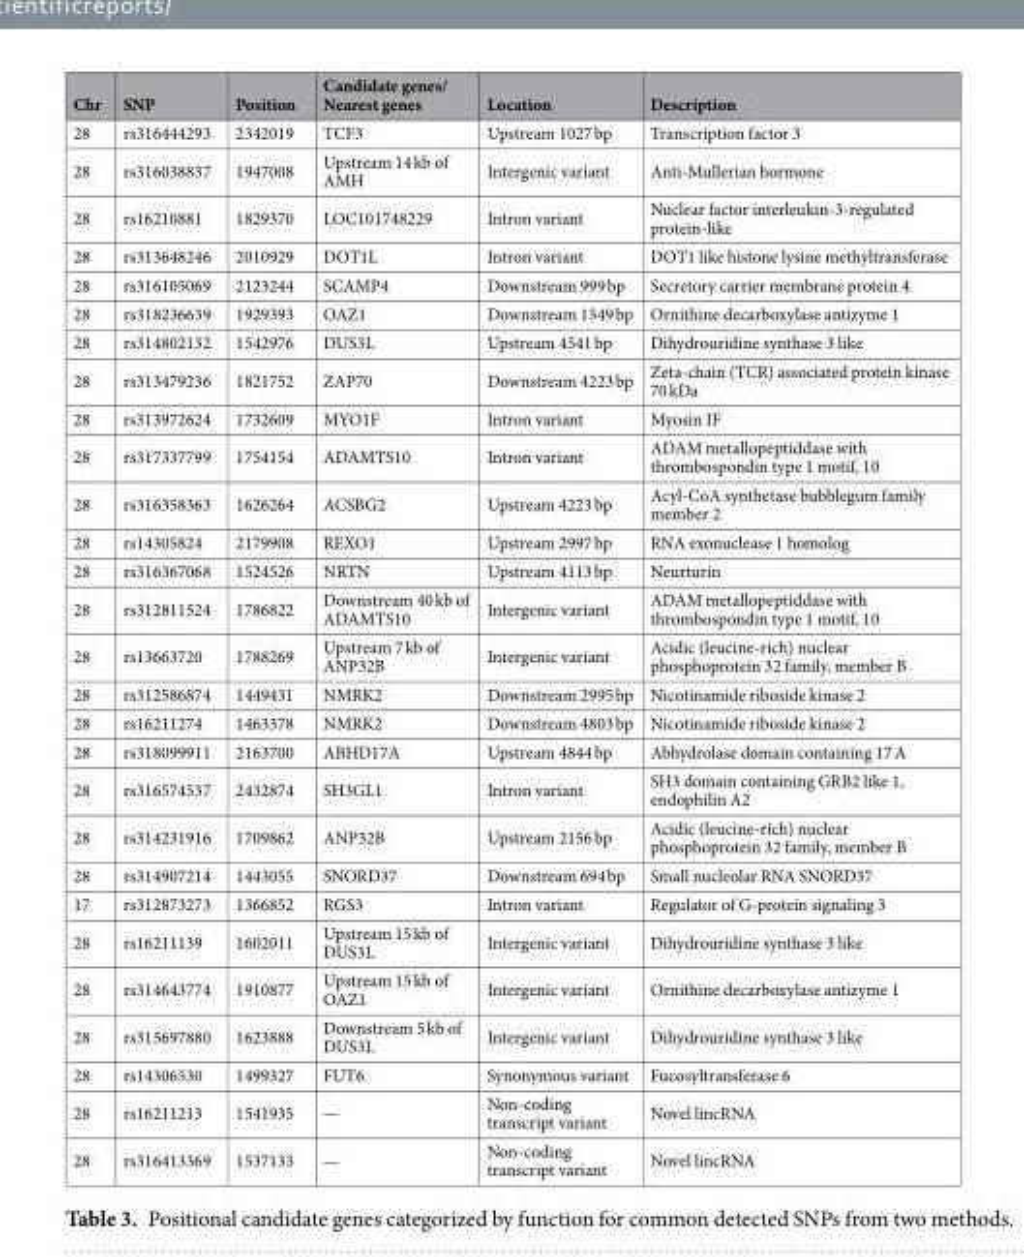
<table><thead><tr><td>Chr</td><td>SNP</td><td>Position</td><td>Candidate genes/ Nearest genes</td><td>Location</td><td>Description</td></tr></thead><tbody><tr><td>28</td><td>rs316444293</td><td>2342019</td><td>TCF3</td><td>Upstream 1027 bp</td><td>Transcription factor 3</td></tr><tr><td>28</td><td>rs316038837</td><td>1947008</td><td>Upstream 14 kb of AMH</td><td>Intergenic variant</td><td>Anti-Mullerian hormone</td></tr><tr><td>28</td><td>rs16210881</td><td>1829370</td><td>LOC101748229</td><td>Intron variant</td><td>Nuclear factor interleukin-3-regulated protein-like</td></tr><tr><td>28</td><td>rs313648246</td><td>2010929</td><td>DOT1L</td><td>Intron variant</td><td>DOT1 like histone lysine methyltransferase</td></tr><tr><td>28</td><td>rs316105069</td><td>2123244</td><td>SCAMP4</td><td>Downstream 999 bp</td><td>Secretory carrier membrane protein 4</td></tr><tr><td>28</td><td>rs318236639</td><td>1929393</td><td>OAZ1</td><td>Downstream 1549 bp</td><td>Ornithine decarboxylase antizyme 1</td></tr><tr><td>28</td><td>rs314802132</td><td>1542976</td><td>DUS3L</td><td>Upstream 4541 bp</td><td>Dihydrouridine synthase 3 like</td></tr><tr><td>28</td><td>rs313479236</td><td>1821752</td><td>ZAP70</td><td>Downstream 4223 bp</td><td>Zeta-chain (TCR) associated protein kinase 70 kDa</td></tr><tr><td>28</td><td>rs313972624</td><td>1732609</td><td>MYO1F</td><td>Intron variant</td><td>Myosin IF</td></tr><tr><td>28</td><td>rs317337799</td><td>1754154</td><td>ADAMTS10</td><td>Intron variant</td><td>ADAM metallopeptiddase with thrombospondin type 1 motif, 10</td></tr><tr><td>28</td><td>rs316358363</td><td>1626264</td><td>ACSBG2</td><td>Upstream 4223 bp</td><td>Acyl-CoA synthetase bubblegum family member 2</td></tr><tr><td>28</td><td>rs14305824</td><td>2179908</td><td>REXO1</td><td>Upstream 2997 bp</td><td>RNA exonuclease 1 homolog</td></tr><tr><td>28</td><td>rs316367068</td><td>1524526</td><td>NRTN</td><td>Upstream 4113 bp</td><td>Neurturin</td></tr><tr><td>28</td><td>rs312811524</td><td>1786822</td><td>Downstream 40 kb of ADAMTS10</td><td>Intergenic variant</td><td>ADAM metallopeptiddase with thrombospondin type 1 motif, 10</td></tr><tr><td>28</td><td>rs13663720</td><td>1788269</td><td>Upstream 7 kb of ANP32B</td><td>Intergenic variant</td><td>Acidic (leucine-rich) nuclear phosphoprotein 32 family, member B</td></tr><tr><td>28</td><td>rs312586874</td><td>1449431</td><td>NMRK2</td><td>Downstream 2995 bp</td><td>Nicotinamide riboside kinase 2</td></tr><tr><td>28</td><td>rs16211274</td><td>1463378</td><td>NMRK2</td><td>Downstream 4803 bp</td><td>Nicotinamide riboside kinase 2</td></tr><tr><td>28</td><td>rs318099911</td><td>2163700</td><td>ABHD17A</td><td>Upstream 4844 bp</td><td>Abhydrolase domain containing 17 A</td></tr><tr><td>28</td><td>rs316574537</td><td>2432874</td><td>SH3GL1</td><td>Intron variant</td><td>SH3 domain containing GRB2 like 1, endophilin A2</td></tr><tr><td>28</td><td>rs314231916</td><td>1709862</td><td>ANP32B</td><td>Upstream 2156 bp</td><td>Acidic (leucine-rich) nuclear phosphoprotein 32 family, member B</td></tr><tr><td>28</td><td>rs314907214</td><td>1443055</td><td>SNORD37</td><td>Downstream 694 bp</td><td>Small nucleolar RNA SNORD37</td></tr><tr><td>17</td><td>rs312873273</td><td>1366852</td><td>RGS3</td><td>Intron variant</td><td>Regulator of G-protein signaling 3</td></tr><tr><td>28</td><td>rs16211139</td><td>1602011</td><td>Upstream 15 kb of DUS3L</td><td>Intergenic variant</td><td>Dihydrouridine synthase 3 like</td></tr><tr><td>28</td><td>rs314643774</td><td>1910877</td><td>Upstream 15 kb of OAZ1</td><td>Intergenic variant</td><td>Ornithine decarboxylase antizyme 1</td></tr><tr><td>28</td><td>rs315697880</td><td>1623888</td><td>Downstream 5 kb of DUS3L</td><td>Intergenic variant</td><td>Dihydrouridine synthase 3 like</td></tr><tr><td>28</td><td>rs14306530</td><td>1499327</td><td>FUT6</td><td>Synonymous variant</td><td>Fucosyltransferase 6</td></tr><tr><td>28</td><td>rs16211213</td><td>1541935</td><td>—</td><td>Non-coding transcript variant</td><td>Novel lincRNA</td></tr><tr><td>28</td><td>rs316413369</td><td>1537133</td><td>—</td><td>Non-coding transcript variant</td><td>Novel lincRNA</td></tr></tbody></table>